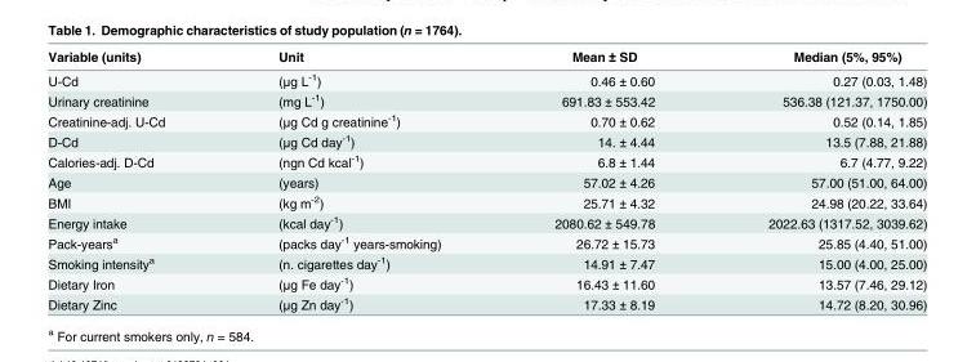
<table><thead><tr><td>Variable (units)</td><td>Unit</td><td>Mean ± SD</td><td>Median (5%, 95%)</td></tr></thead><tbody><tr><td>U-Cd</td><td>(μg L<sup>-1</sup>)</td><td>0.46 ± 0.60</td><td>0.27 (0.03, 1.48)</td></tr><tr><td>Urinary creatinine</td><td>(mg L<sup>-1</sup>)</td><td>691.83 ± 553.42</td><td>536.38 (121.37, 1750.00)</td></tr><tr><td>Creatinine-adj. U-Cd</td><td>(μg Cd g creatinine<sup>-1</sup>)</td><td>0.70 ± 0.62</td><td>0.52 (0.14, 1.85)</td></tr><tr><td>D-Cd</td><td>(μg Cd day<sup>-1</sup>)</td><td>14. ± 4.44</td><td>13.5 (7.88, 21.88)</td></tr><tr><td>Calories-adj. D-Cd</td><td>(ngn Cd kcal<sup>-1</sup>)</td><td>6.8 ± 1.44</td><td>6.7 (4.77, 9.22)</td></tr><tr><td>Age</td><td>(years)</td><td>57.02 ± 4.26</td><td>57.00 (51.00, 64.00)</td></tr><tr><td>BMI</td><td>(kg m<sup>-2</sup>)</td><td>25.71 ± 4.32</td><td>24.98 (20.22, 33.64)</td></tr><tr><td>Energy intake</td><td>(kcal day<sup>-1</sup>)</td><td>2080.62 ± 549.78</td><td>2022.63 (1317.52, 3039.62)</td></tr><tr><td>Pack-years<sup>a</sup></td><td>(packs day<sup>-1</sup> years-smoking)</td><td>26.72 ± 15.73</td><td>25.85 (4.40, 51.00)</td></tr><tr><td>Smoking intensity<sup>a</sup></td><td>(n. cigarettes day<sup>-1</sup>)</td><td>14.91 ± 7.47</td><td>15.00 (4.00, 25.00)</td></tr><tr><td>Dietary Iron</td><td>(μg Fe day<sup>-1</sup>)</td><td>16.43 ± 11.60</td><td>13.57 (7.46, 29.12)</td></tr><tr><td>Dietary Zinc</td><td>(μg Zn day<sup>-1</sup>)</td><td>17.33 ± 8.19</td><td>14.72 (8.20, 30.96)</td></tr></tbody></table>